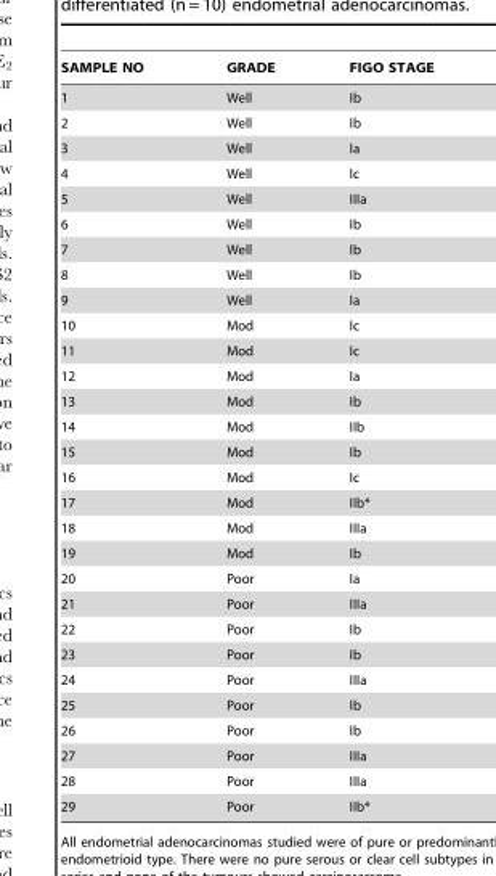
<table><thead><tr><td>SAMPLE NO</td><td>GRADE</td><td>FIGO STAGE</td></tr></thead><tbody><tr><td>1</td><td>Well</td><td>Ib</td></tr><tr><td>2</td><td>Well</td><td>Ib</td></tr><tr><td>3</td><td>Well</td><td>Ia</td></tr><tr><td>4</td><td>Well</td><td>Ic</td></tr><tr><td>5</td><td>Well</td><td>IIIa</td></tr><tr><td>6</td><td>Well</td><td>Ib</td></tr><tr><td>7</td><td>Well</td><td>Ib</td></tr><tr><td>8</td><td>Well</td><td>Ib</td></tr><tr><td>9</td><td>Well</td><td>Ia</td></tr><tr><td>10</td><td>Mod</td><td>Ic</td></tr><tr><td>11</td><td>Mod</td><td>Ic</td></tr><tr><td>12</td><td>Mod</td><td>Ia</td></tr><tr><td>13</td><td>Mod</td><td>Ib</td></tr><tr><td>14</td><td>Mod</td><td>IIb</td></tr><tr><td>15</td><td>Mod</td><td>Ib</td></tr><tr><td>16</td><td>Mod</td><td>Ic</td></tr><tr><td>17</td><td>Mod</td><td>IIb*</td></tr><tr><td>18</td><td>Mod</td><td>IIIa</td></tr><tr><td>19</td><td>Mod</td><td>Ib</td></tr><tr><td>20</td><td>Poor</td><td>Ia</td></tr><tr><td>21</td><td>Poor</td><td>IIIa</td></tr><tr><td>22</td><td>Poor</td><td>Ib</td></tr><tr><td>23</td><td>Poor</td><td>Ib</td></tr><tr><td>24</td><td>Poor</td><td>IIIa</td></tr><tr><td>25</td><td>Poor</td><td>Ib</td></tr><tr><td>26</td><td>Poor</td><td>Ib</td></tr><tr><td>27</td><td>Poor</td><td>IIIa</td></tr><tr><td>28</td><td>Poor</td><td>IIIa</td></tr><tr><td>29</td><td>Poor</td><td>IIb*</td></tr></tbody></table>